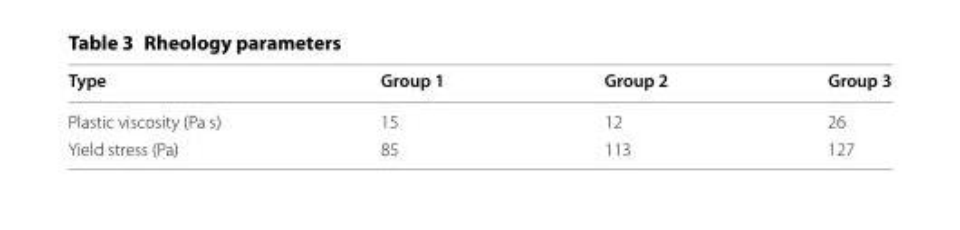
<table><thead><tr><td>Type</td><td>Group 1</td><td>Group 2</td><td>Group 3</td></tr></thead><tbody><tr><td>Plastic viscosity (Pa s)</td><td>15</td><td>12</td><td>26</td></tr><tr><td>Yield stress (Pa)</td><td>85</td><td>113</td><td>127</td></tr></tbody></table>